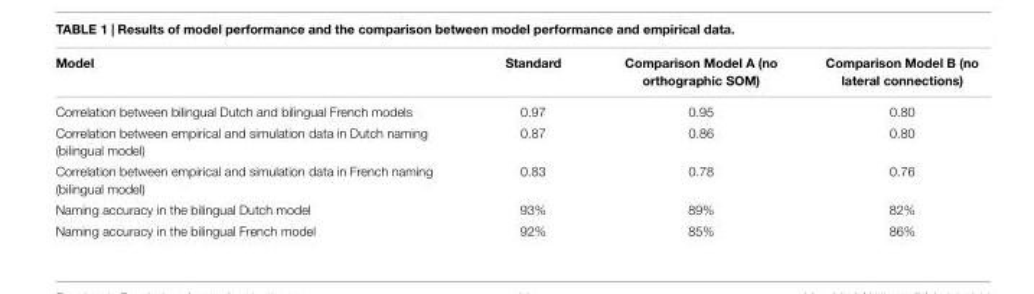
<table><thead><tr><td>Model</td><td>Standard</td><td>Comparison Model A (no orthographic SOM)</td><td>Comparison Model B (no lateral connections)</td></tr></thead><tbody><tr><td>Correlation between bilingual Dutch and bilingual French models</td><td>0.97</td><td>0.95</td><td>0.80</td></tr><tr><td>Correlation between empirical and simulation data in Dutch naming (bilingual model)</td><td>0.87</td><td>0.86</td><td>0.80</td></tr><tr><td>Correlation between empirical and simulation data in French naming (bilingual model)</td><td>0.83</td><td>0.78</td><td>0.76</td></tr><tr><td>Naming accuracy in the bilingual Dutch model</td><td>93%</td><td>89%</td><td>82%</td></tr><tr><td>Naming accuracy in the bilingual French model</td><td>92%</td><td>85%</td><td>86%</td></tr></tbody></table>